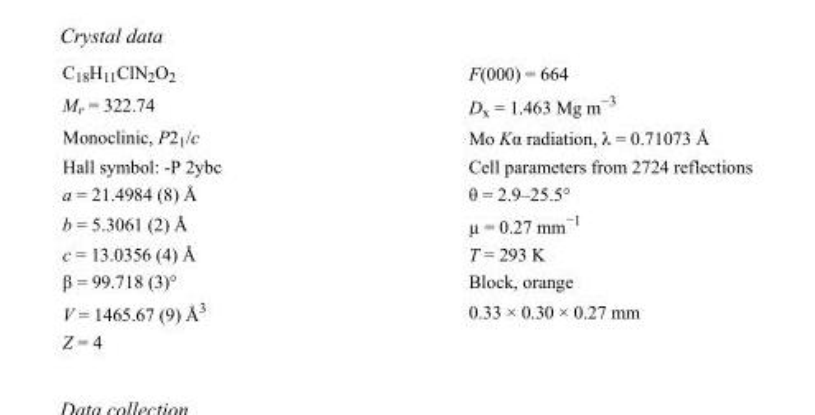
<table><tbody><tr><td>C<sub>18</sub>H<sub>11</sub>ClN<sub>2</sub>O<sub>2</sub></td><td>F(000) = 664</td></tr><tr><td>M<sub>r</sub> = 322.74</td><td>D<sub>x</sub> = 1.463 Mg m<sup>−3</sup></td></tr><tr><td>Monoclinic, P2<sub>1</sub>/c</td><td>Mo Kα radiation, λ = 0.71073 Å</td></tr><tr><td>Hall symbol: -P 2ybc</td><td>Cell parameters from 2724 reflections</td></tr><tr><td>a = 21.4984 (8) Å</td><td>θ = 2.9–25.5°</td></tr><tr><td>b = 5.3061 (2) Å</td><td>µ = 0.27 mm<sup>−1</sup></td></tr><tr><td>c = 13.0356 (4) Å</td><td>T = 293 K</td></tr><tr><td>β = 99.718 (3)°</td><td>Block, orange</td></tr><tr><td>V = 1465.67 (9) Å<sup>3</sup></td><td>0.33 × 0.30 × 0.27 mm</td></tr><tr><td>Z = 4</td><td></td></tr></tbody></table>